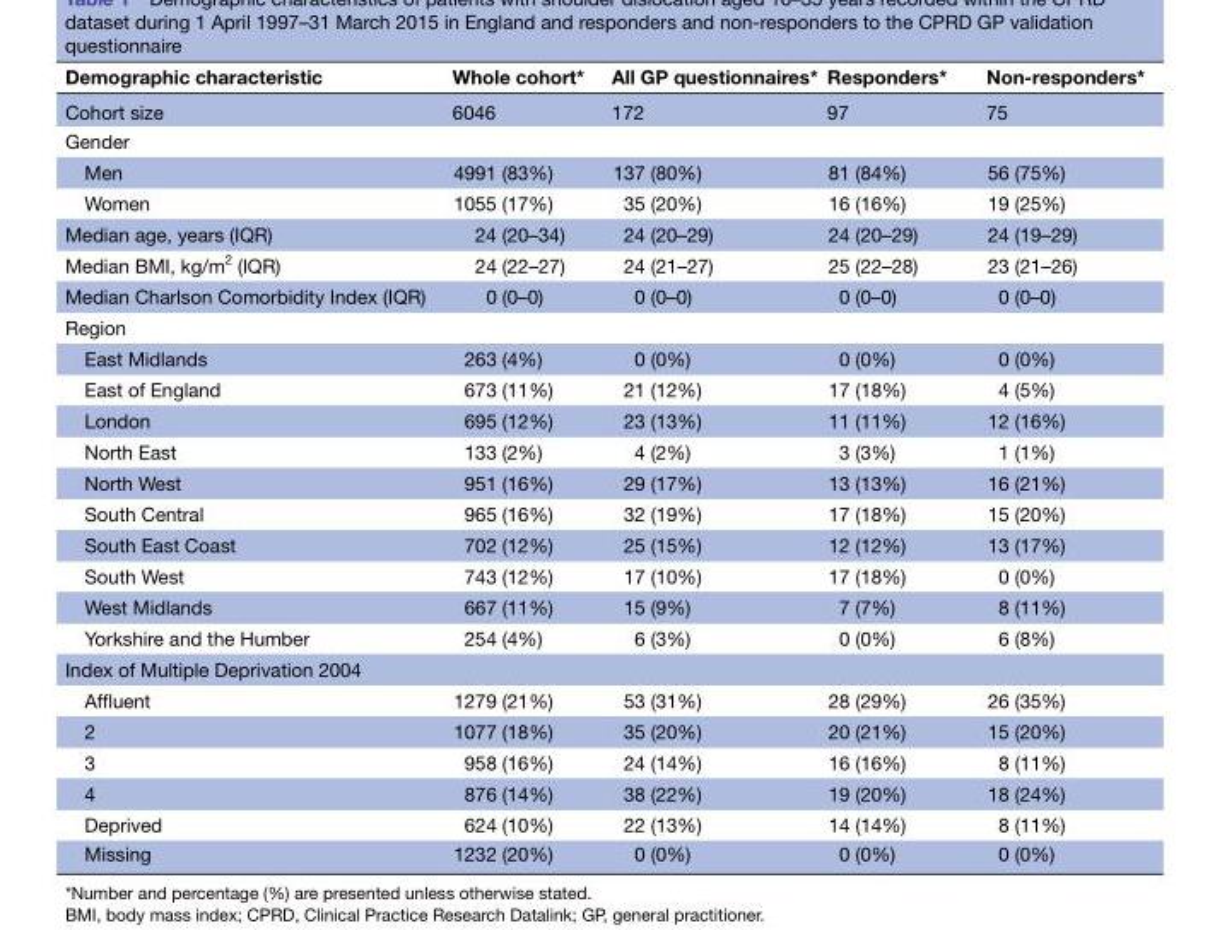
<table><thead><tr><td>Demographic characteristic</td><td>Whole cohort*</td><td>All GP questionnaires*</td><td>Responders*</td><td>Non-responders*</td></tr></thead><tbody><tr><td>Cohort size</td><td>6046</td><td>172</td><td>97</td><td>75</td></tr><tr><td colspan="5">Gender</td></tr><tr><td>Men</td><td>4991 (83%)</td><td>137 (80%)</td><td>81 (84%)</td><td>56 (75%)</td></tr><tr><td>Women</td><td>1055 (17%)</td><td>35 (20%)</td><td>16 (16%)</td><td>19 (25%)</td></tr><tr><td>Median age, years (IQR)</td><td>24 (20–34)</td><td>24 (20–29)</td><td>24 (20–29)</td><td>24 (19–29)</td></tr><tr><td>Median BMI, kg/m<sup>2</sup> (IQR)</td><td>24 (22–27)</td><td>24 (21–27)</td><td>25 (22–28)</td><td>23 (21–26)</td></tr><tr><td>Median Charlson Comorbidity Index (IQR)</td><td>0 (0–0)</td><td>0 (0–0)</td><td>0 (0–0)</td><td>0 (0–0)</td></tr><tr><td colspan="5">Region</td></tr><tr><td>East Midlands</td><td>263 (4%)</td><td>0 (0%)</td><td>0 (0%)</td><td>0 (0%)</td></tr><tr><td>East of England</td><td>673 (11%)</td><td>21 (12%)</td><td>17 (18%)</td><td>4 (5%)</td></tr><tr><td>London</td><td>695 (12%)</td><td>23 (13%)</td><td>11 (11%)</td><td>12 (16%)</td></tr><tr><td>North East</td><td>133 (2%)</td><td>4 (2%)</td><td>3 (3%)</td><td>1 (1%)</td></tr><tr><td>North West</td><td>951 (16%)</td><td>29 (17%)</td><td>13 (13%)</td><td>16 (21%)</td></tr><tr><td>South Central</td><td>965 (16%)</td><td>32 (19%)</td><td>17 (18%)</td><td>15 (20%)</td></tr><tr><td>South East Coast</td><td>702 (12%)</td><td>25 (15%)</td><td>12 (12%)</td><td>13 (17%)</td></tr><tr><td>South West</td><td>743 (12%)</td><td>17 (10%)</td><td>17 (18%)</td><td>0 (0%)</td></tr><tr><td>West Midlands</td><td>667 (11%)</td><td>15 (9%)</td><td>7 (7%)</td><td>8 (11%)</td></tr><tr><td>Yorkshire and the Humber</td><td>254 (4%)</td><td>6 (3%)</td><td>0 (0%)</td><td>6 (8%)</td></tr><tr><td colspan="5">Index of Multiple Deprivation 2004</td></tr><tr><td>Affluent</td><td>1279 (21%)</td><td>53 (31%)</td><td>28 (29%)</td><td>26 (35%)</td></tr><tr><td>2</td><td>1077 (18%)</td><td>35 (20%)</td><td>20 (21%)</td><td>15 (20%)</td></tr><tr><td>3</td><td>958 (16%)</td><td>24 (14%)</td><td>16 (16%)</td><td>8 (11%)</td></tr><tr><td>4</td><td>876 (14%)</td><td>38 (22%)</td><td>19 (20%)</td><td>18 (24%)</td></tr><tr><td>Deprived</td><td>624 (10%)</td><td>22 (13%)</td><td>14 (14%)</td><td>8 (11%)</td></tr><tr><td>Missing</td><td>1232 (20%)</td><td>0 (0%)</td><td>0 (0%)</td><td>0 (0%)</td></tr></tbody></table>